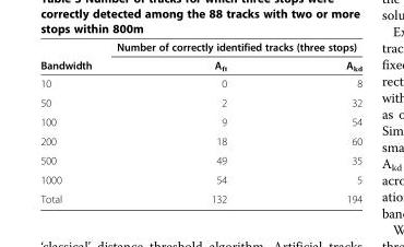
<table><thead><tr><td rowspan="2">Bandwidth</td><td colspan="2">Number of correctly identified tracks (three stops)</td></tr><tr><td>A<sub>ft</sub></td><td>A<sub>kd</sub></td></tr></thead><tbody><tr><td>10</td><td>0</td><td>8</td></tr><tr><td>50</td><td>2</td><td>32</td></tr><tr><td>100</td><td>9</td><td>54</td></tr><tr><td>200</td><td>18</td><td>60</td></tr><tr><td>500</td><td>49</td><td>35</td></tr><tr><td>1000</td><td>54</td><td>5</td></tr><tr><td>Total</td><td>132</td><td>194</td></tr></tbody></table>